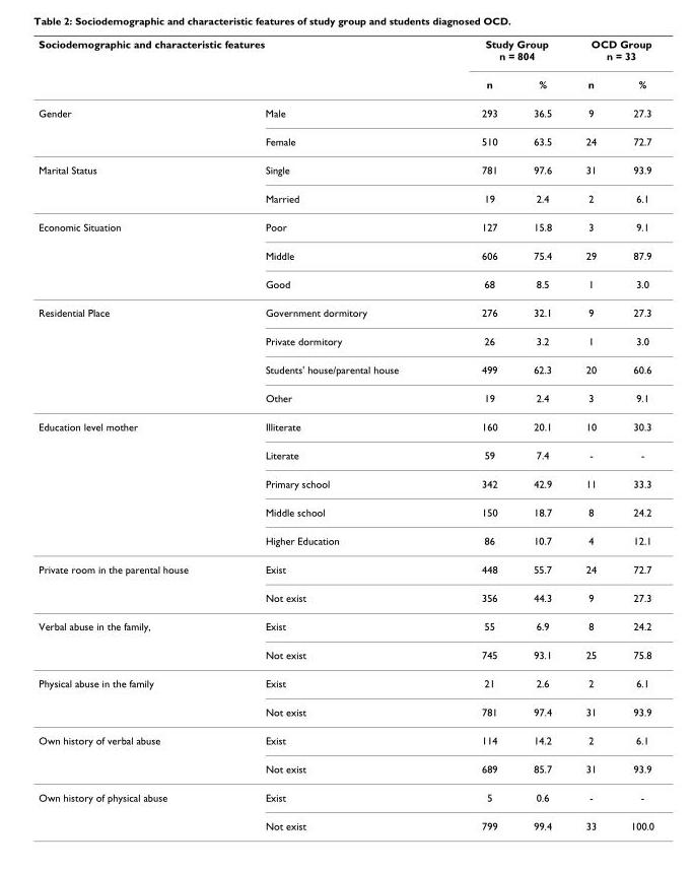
<table><thead><tr><td colspan="2">Sociodemographic and characteristic features</td><td colspan="2">Study Group n = 804</td><td colspan="2">OCD Group n = 33</td></tr><tr><td></td><td></td><td>n</td><td>%</td><td>n</td><td>%</td></tr></thead><tbody><tr><td rowspan="2">Gender</td><td>Male</td><td>293</td><td>36.5</td><td>9</td><td>27.3</td></tr><tr><td>Female</td><td>510</td><td>63.5</td><td>24</td><td>72.7</td></tr><tr><td rowspan="2">Marital Status</td><td>Single</td><td>781</td><td>97.6</td><td>31</td><td>93.9</td></tr><tr><td>Married</td><td>19</td><td>2.4</td><td>2</td><td>6.1</td></tr><tr><td rowspan="3">Economic Situation</td><td>Poor</td><td>127</td><td>15.8</td><td>3</td><td>9.1</td></tr><tr><td>Middle</td><td>606</td><td>75.4</td><td>29</td><td>87.9</td></tr><tr><td>Good</td><td>68</td><td>8.5</td><td>1</td><td>3.0</td></tr><tr><td rowspan="4">Residential Place</td><td>Government dormitory</td><td>276</td><td>32.1</td><td>9</td><td>27.3</td></tr><tr><td>Private dormitory</td><td>26</td><td>3.2</td><td>1</td><td>3.0</td></tr><tr><td>Students&#x27; house/parental house</td><td>499</td><td>62.3</td><td>20</td><td>60.6</td></tr><tr><td>Other</td><td>19</td><td>2.4</td><td>3</td><td>9.1</td></tr><tr><td rowspan="5">Education level mother</td><td>Illiterate</td><td>160</td><td>20.1</td><td>10</td><td>30.3</td></tr><tr><td>Literate</td><td>59</td><td>7.4</td><td>-</td><td>-</td></tr><tr><td>Primary school</td><td>342</td><td>42.9</td><td>11</td><td>33.3</td></tr><tr><td>Middle school</td><td>150</td><td>18.7</td><td>8</td><td>24.2</td></tr><tr><td>Higher Education</td><td>86</td><td>10.7</td><td>4</td><td>12.1</td></tr><tr><td rowspan="2">Private room in the parental house</td><td>Exist</td><td>448</td><td>55.7</td><td>24</td><td>72.7</td></tr><tr><td>Not exist</td><td>356</td><td>44.3</td><td>9</td><td>27.3</td></tr><tr><td rowspan="2">Verbal abuse in the family,</td><td>Exist</td><td>55</td><td>6.9</td><td>8</td><td>24.2</td></tr><tr><td>Not exist</td><td>745</td><td>93.1</td><td>25</td><td>75.8</td></tr><tr><td rowspan="2">Physical abuse in the family</td><td>Exist</td><td>21</td><td>2.6</td><td>2</td><td>6.1</td></tr><tr><td>Not exist</td><td>781</td><td>97.4</td><td>31</td><td>93.9</td></tr><tr><td rowspan="2">Own history of verbal abuse</td><td>Exist</td><td>114</td><td>14.2</td><td>2</td><td>6.1</td></tr><tr><td>Not exist</td><td>689</td><td>85.7</td><td>31</td><td>93.9</td></tr><tr><td rowspan="2">Own history of physical abuse</td><td>Exist</td><td>5</td><td>0.6</td><td>-</td><td>-</td></tr><tr><td>Not exist</td><td>799</td><td>99.4</td><td>33</td><td>100.0</td></tr></tbody></table>